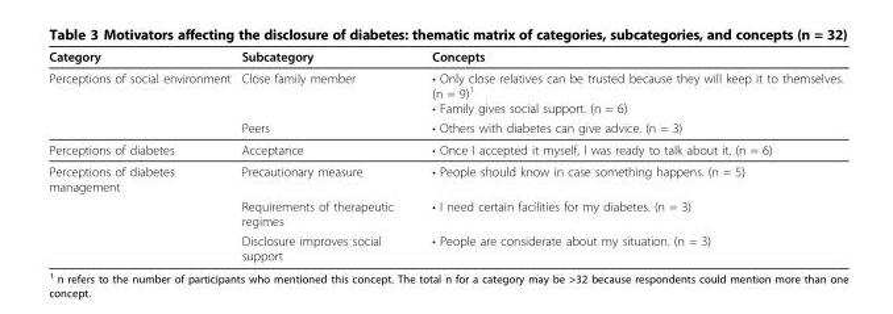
<table><thead><tr><td>Category</td><td>Subcategory</td><td>Concepts</td></tr></thead><tbody><tr><td rowspan="2">Perceptions of social environment</td><td>Close family member</td><td>• Only close relatives can be trusted because they will keep it to themselves. (n = 9)<sup>1</sup> • Family gives social support. (n = 6)</td></tr><tr><td>Peers</td><td>• Others with diabetes can give advice. (n = 3)</td></tr><tr><td>Perceptions of diabetes</td><td>Acceptance</td><td>• Once I accepted it myself, I was ready to talk about it. (n = 6)</td></tr><tr><td rowspan="3">Perceptions of diabetes management</td><td>Precautionary measure</td><td>• People should know in case something happens. (n = 5)</td></tr><tr><td>Requirements of therapeutic regimes</td><td>• I need certain facilities for my diabetes. (n = 3)</td></tr><tr><td>Disclosure improves social support</td><td>• People are considerate about my situation. (n = 3)</td></tr></tbody></table>